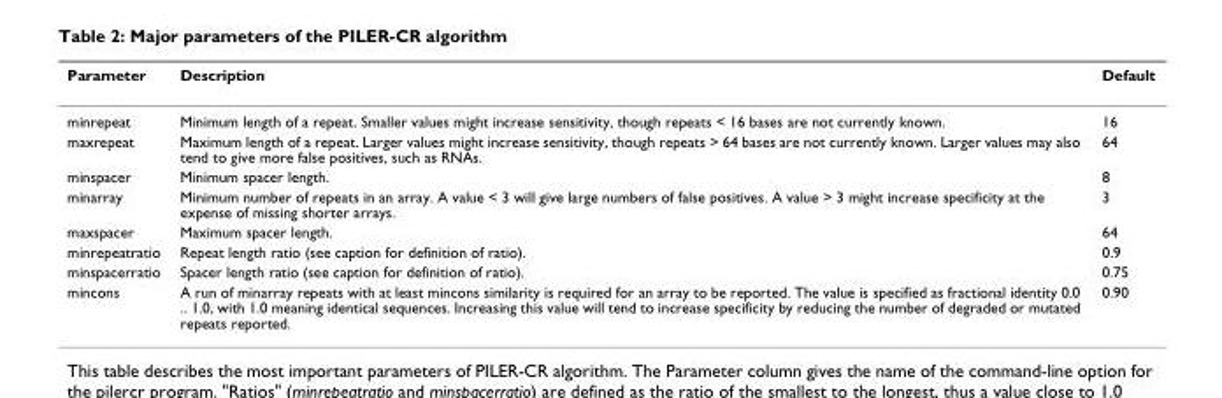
<table><thead><tr><td>Parameter</td><td>Description</td><td>Default</td></tr></thead><tbody><tr><td>minrepeat</td><td>Minimum length of a repeat. Smaller values might increase sensitivity, though repeats &lt; 16 bases are not currently known.</td><td>16</td></tr><tr><td>maxrepeat</td><td>Maximum length of a repeat. Larger values might increase sensitivity, though repeats &gt; 64 bases are not currently known. Larger values may also tend to give more false positives, such as RNAs.</td><td>64</td></tr><tr><td>minspacer</td><td>Minimum spacer length.</td><td>8</td></tr><tr><td>minarray</td><td>Minimum number of repeats in an array. A value &lt; 3 will give large numbers of false positives. A value &gt; 3 might increase specificity at the expense of missing shorter arrays.</td><td>3</td></tr><tr><td>maxspacer</td><td>Maximum spacer length.</td><td>64</td></tr><tr><td>minrepeatratio</td><td>Repeat length ratio (see caption for definition of ratio).</td><td>0.9</td></tr><tr><td>minspacerratio</td><td>Spacer length ratio (see caption for definition of ratio).</td><td>0.75</td></tr><tr><td>mincons</td><td>A run of minarray repeats with at least mincons similarity is required for an array to be reported. The value is specified as fractional identity 0.0 .. 1.0, with 1.0 meaning identical sequences. Increasing this value will tend to increase specificity by reducing the number of degraded or mutated repeats reported.</td><td>0.90</td></tr></tbody></table>